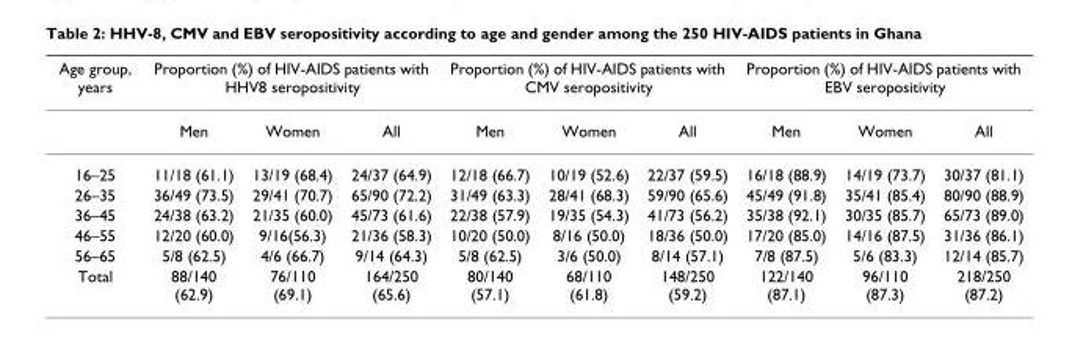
<table><thead><tr><td rowspan="2">Age group, years</td><td colspan="3">Proportion (%) of HIV-AIDS patients with HHV8 seropositivity</td><td colspan="3">Proportion (%) of HIV-AIDS patients with CMV seropositivity</td><td colspan="3">Proportion (%) of HIV-AIDS patients with EBV seropositivity</td></tr><tr><td>Men</td><td>Women</td><td>All</td><td>Men</td><td>Women</td><td>All</td><td>Men</td><td>Women</td><td>All</td></tr></thead><tbody><tr><td>16–25</td><td>11/18 (61.1)</td><td>13/19 (68.4)</td><td>24/37 (64.9)</td><td>12/18 (66.7)</td><td>10/19 (52.6)</td><td>22/37 (59.5)</td><td>16/18 (88.9)</td><td>14/19 (73.7)</td><td>30/37 (81.1)</td></tr><tr><td>26–35</td><td>36/49 (73.5)</td><td>29/41 (70.7)</td><td>65/90 (72.2)</td><td>31/49 (63.3)</td><td>28/41 (68.3)</td><td>59/90 (65.6)</td><td>45/49 (91.8)</td><td>35/41 (85.4)</td><td>80/90 (88.9)</td></tr><tr><td>36–45</td><td>24/38 (63.2)</td><td>21/35 (60.0)</td><td>45/73 (61.6)</td><td>22/38 (57.9)</td><td>19/35 (54.3)</td><td>41/73 (56.2)</td><td>35/38 (92.1)</td><td>30/35 (85.7)</td><td>65/73 (89.0)</td></tr><tr><td>46–55</td><td>12/20 (60.0)</td><td>9/16(56.3)</td><td>21/36 (58.3)</td><td>10/20 (50.0)</td><td>8/16 (50.0)</td><td>18/36 (50.0)</td><td>17/20 (85.0)</td><td>14/16 (87.5)</td><td>31/36 (86.1)</td></tr><tr><td>56–65</td><td>5/8 (62.5)</td><td>4/6 (66.7)</td><td>9/14 (64.3)</td><td>5/8 (62.5)</td><td>3/6 (50.0)</td><td>8/14 (57.1)</td><td>7/8 (87.5)</td><td>5/6 (83.3)</td><td>12/14 (85.7)</td></tr><tr><td>Total</td><td>88/140 (62.9)</td><td>76/110 (69.1)</td><td>164/250 (65.6)</td><td>80/140 (57.1)</td><td>68/110 (61.8)</td><td>148/250 (59.2)</td><td>122/140 (87.1)</td><td>96/110 (87.3)</td><td>218/250 (87.2)</td></tr></tbody></table>